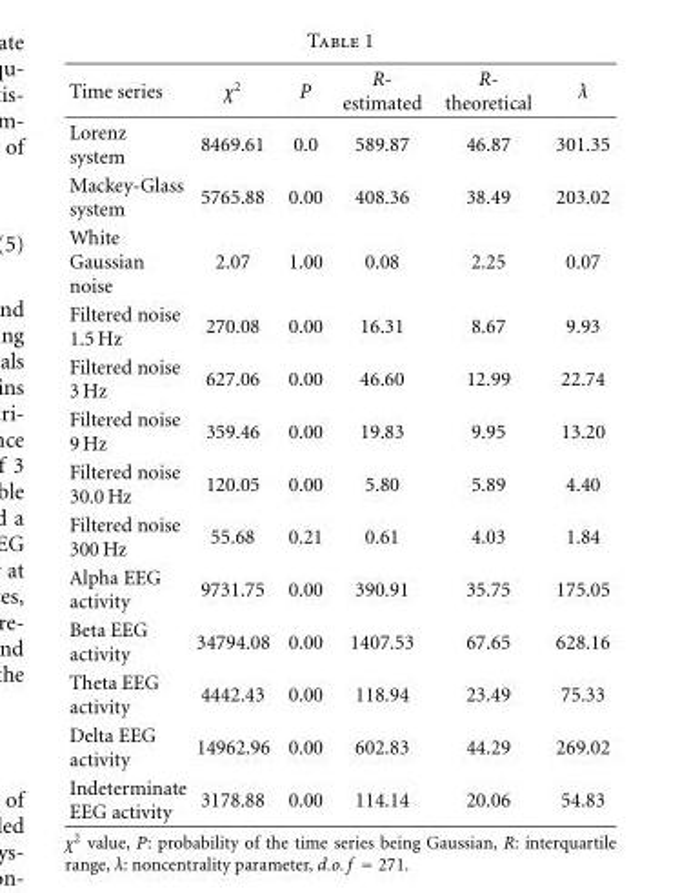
<table><thead><tr><td>Time series</td><td>χ<sup>2</sup></td><td>P</td><td>R- estimated</td><td>R- theoretical</td><td>λ</td></tr></thead><tbody><tr><td>Lorenz system</td><td>8469.61</td><td>0.0</td><td>589.87</td><td>46.87</td><td>301.35</td></tr><tr><td>Mackey-Glass system</td><td>5765.88</td><td>0.00</td><td>408.36</td><td>38.49</td><td>203.02</td></tr><tr><td>White Gaussian noise</td><td>2.07</td><td>1.00</td><td>0.08</td><td>2.25</td><td>0.07</td></tr><tr><td>Filtered noise 1.5 Hz</td><td>270.08</td><td>0.00</td><td>16.31</td><td>8.67</td><td>9.93</td></tr><tr><td>Filtered noise 3 Hz</td><td>627.06</td><td>0.00</td><td>46.60</td><td>12.99</td><td>22.74</td></tr><tr><td>Filtered noise 9 Hz</td><td>359.46</td><td>0.00</td><td>19.83</td><td>9.95</td><td>13.20</td></tr><tr><td>Filtered noise 30.0 Hz</td><td>120.05</td><td>0.00</td><td>5.80</td><td>5.89</td><td>4.40</td></tr><tr><td>Filtered noise 300 Hz</td><td>55.68</td><td>0.21</td><td>0.61</td><td>4.03</td><td>1.84</td></tr><tr><td>Alpha EEG activity</td><td>9731.75</td><td>0.00</td><td>390.91</td><td>35.75</td><td>175.05</td></tr><tr><td>Beta EEG activity</td><td>34794.08</td><td>0.00</td><td>1407.53</td><td>67.65</td><td>628.16</td></tr><tr><td>Theta EEG activity</td><td>4442.43</td><td>0.00</td><td>118.94</td><td>23.49</td><td>75.33</td></tr><tr><td>Delta EEG activity</td><td>14962.96</td><td>0.00</td><td>602.83</td><td>44.29</td><td>269.02</td></tr><tr><td>Indeterminate EEG activity</td><td>3178.88</td><td>0.00</td><td>114.14</td><td>20.06</td><td>54.83</td></tr></tbody></table>